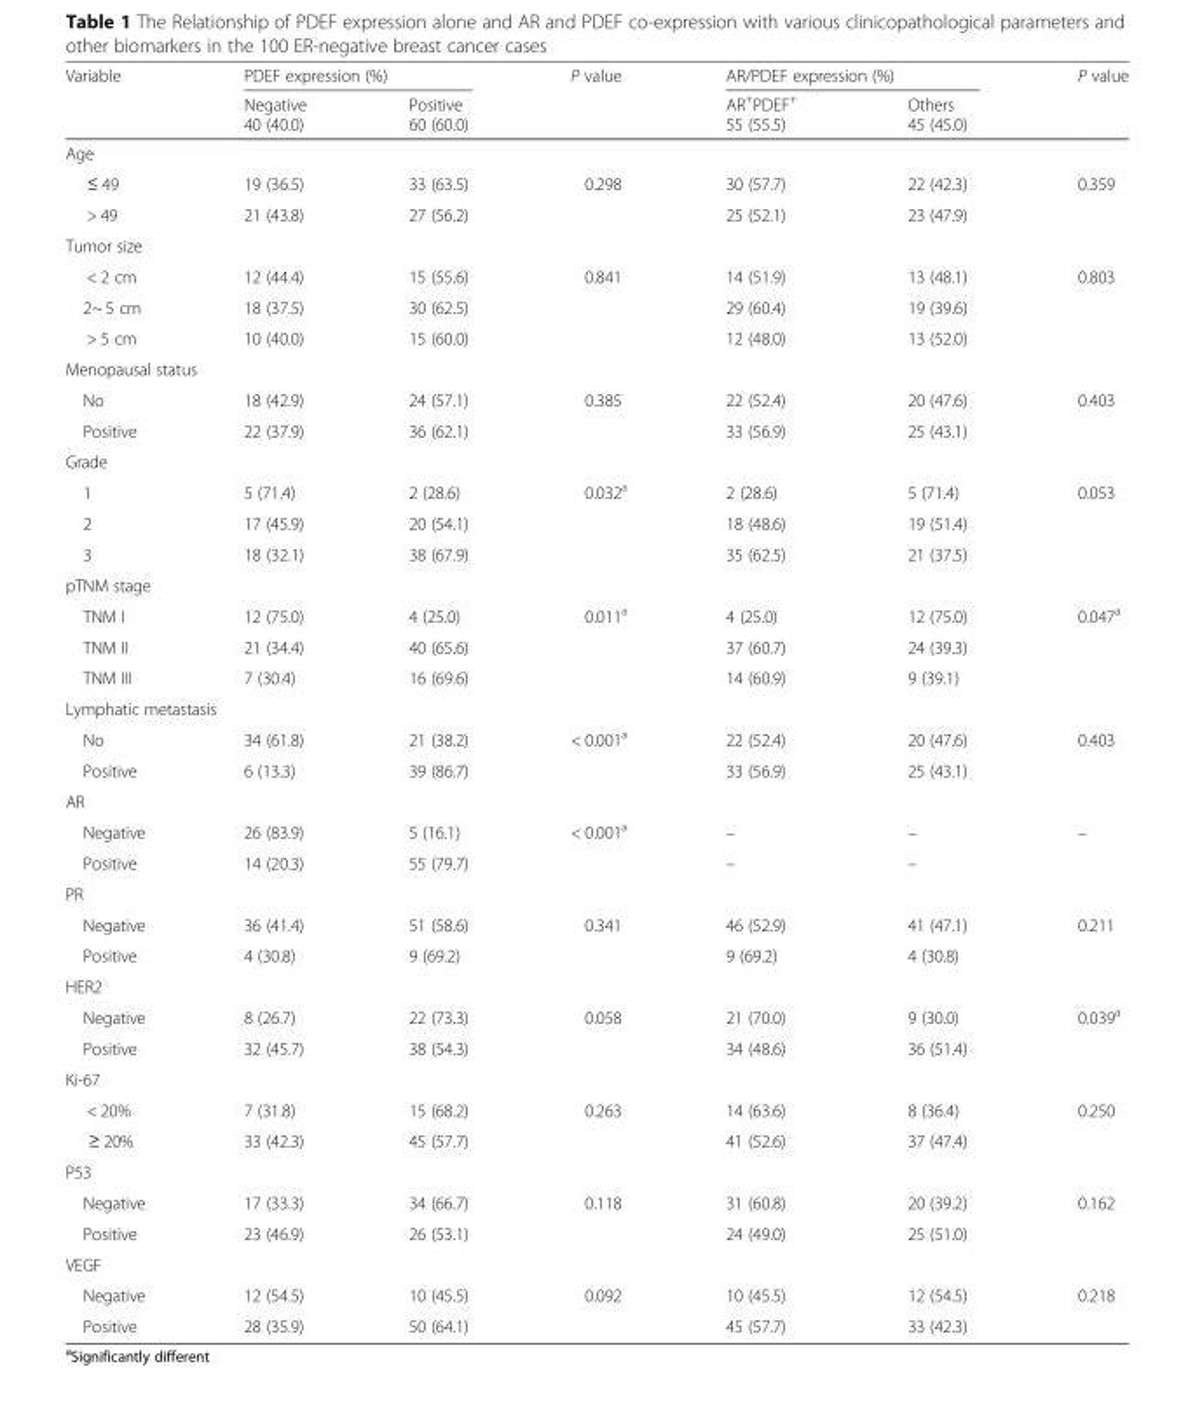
<table><thead><tr><td rowspan="2">Variable</td><td colspan="2">PDEF expression (%)</td><td rowspan="2">P value</td><td colspan="2">AR/PDEF expression (%)</td><td rowspan="2">P value</td></tr><tr><td>Negative 40 (40.0)</td><td>Positive 60 (60.0)</td><td>AR<sup>+</sup>PDEF<sup>+</sup> 55 (55.5)</td><td>Others 45 (45.0)</td></tr></thead><tbody><tr><td colspan="7">Age</td></tr><tr><td>≤ 49</td><td>19 (36.5)</td><td>33 (63.5)</td><td rowspan="2">0.298</td><td>30 (57.7)</td><td>22 (42.3)</td><td rowspan="2">0.359</td></tr><tr><td>&gt; 49</td><td>21 (43.8)</td><td>27 (56.2)</td><td>25 (52.1)</td><td>23 (47.9)</td></tr><tr><td colspan="7">Tumor size</td></tr><tr><td>&lt; 2 cm</td><td>12 (44.4)</td><td>15 (55.6)</td><td rowspan="3">0.841</td><td>14 (51.9)</td><td>13 (48.1)</td><td rowspan="3">0.803</td></tr><tr><td>2~ 5 cm</td><td>18 (37.5)</td><td>30 (62.5)</td><td>29 (60.4)</td><td>19 (39.6)</td></tr><tr><td>&gt; 5 cm</td><td>10 (40.0)</td><td>15 (60.0)</td><td>12 (48.0)</td><td>13 (52.0)</td></tr><tr><td colspan="7">Menopausal status</td></tr><tr><td>No</td><td>18 (42.9)</td><td>24 (57.1)</td><td rowspan="2">0.385</td><td>22 (52.4)</td><td>20 (47.6)</td><td rowspan="2">0.403</td></tr><tr><td>Positive</td><td>22 (37.9)</td><td>36 (62.1)</td><td>33 (56.9)</td><td>25 (43.1)</td></tr><tr><td colspan="7">Grade</td></tr><tr><td>1</td><td>5 (71.4)</td><td>2 (28.6)</td><td rowspan="3">0.032<sup>a</sup></td><td>2 (28.6)</td><td>5 (71.4)</td><td rowspan="3">0.053</td></tr><tr><td>2</td><td>17 (45.9)</td><td>20 (54.1)</td><td>18 (48.6)</td><td>19 (51.4)</td></tr><tr><td>3</td><td>18 (32.1)</td><td>38 (67.9)</td><td>35 (62.5)</td><td>21 (37.5)</td></tr><tr><td colspan="7">pTNM stage</td></tr><tr><td>TNM I</td><td>12 (75.0)</td><td>4 (25.0)</td><td rowspan="3">0.011<sup>a</sup></td><td>4 (25.0)</td><td>12 (75.0)</td><td rowspan="3">0.047<sup>a</sup></td></tr><tr><td>TNM II</td><td>21 (34.4)</td><td>40 (65.6)</td><td>37 (60.7)</td><td>24 (39.3)</td></tr><tr><td>TNM III</td><td>7 (30.4)</td><td>16 (69.6)</td><td>14 (60.9)</td><td>9 (39.1)</td></tr><tr><td colspan="7">Lymphatic metastasis</td></tr><tr><td>No</td><td>34 (61.8)</td><td>21 (38.2)</td><td rowspan="2">&lt; 0.001<sup>a</sup></td><td>22 (52.4)</td><td>20 (47.6)</td><td rowspan="2">0.403</td></tr><tr><td>Positive</td><td>6 (13.3)</td><td>39 (86.7)</td><td>33 (56.9)</td><td>25 (43.1)</td></tr><tr><td colspan="7">AR</td></tr><tr><td>Negative</td><td>26 (83.9)</td><td>5 (16.1)</td><td rowspan="2">&lt; 0.001<sup>a</sup></td><td>–</td><td>–</td><td rowspan="2">–</td></tr><tr><td>Positive</td><td>14 (20.3)</td><td>55 (79.7)</td><td>–</td><td>–</td></tr><tr><td colspan="7">PR</td></tr><tr><td>Negative</td><td>36 (41.4)</td><td>51 (58.6)</td><td rowspan="2">0.341</td><td>46 (52.9)</td><td>41 (47.1)</td><td rowspan="2">0.211</td></tr><tr><td>Positive</td><td>4 (30.8)</td><td>9 (69.2)</td><td>9 (69.2)</td><td>4 (30.8)</td></tr><tr><td colspan="7">HER2</td></tr><tr><td>Negative</td><td>8 (26.7)</td><td>22 (73.3)</td><td rowspan="2">0.058</td><td>21 (70.0)</td><td>9 (30.0)</td><td rowspan="2">0.039<sup>a</sup></td></tr><tr><td>Positive</td><td>32 (45.7)</td><td>38 (54.3)</td><td>34 (48.6)</td><td>36 (51.4)</td></tr><tr><td colspan="7">Ki-67</td></tr><tr><td>&lt; 20%</td><td>7 (31.8)</td><td>15 (68.2)</td><td rowspan="2">0.263</td><td>14 (63.6)</td><td>8 (36.4)</td><td rowspan="2">0.250</td></tr><tr><td>≥ 20%</td><td>33 (42.3)</td><td>45 (57.7)</td><td>41 (52.6)</td><td>37 (47.4)</td></tr><tr><td colspan="7">P53</td></tr><tr><td>Negative</td><td>17 (33.3)</td><td>34 (66.7)</td><td rowspan="2">0.118</td><td>31 (60.8)</td><td>20 (39.2)</td><td rowspan="2">0.162</td></tr><tr><td>Positive</td><td>23 (46.9)</td><td>26 (53.1)</td><td>24 (49.0)</td><td>25 (51.0)</td></tr><tr><td colspan="7">VEGF</td></tr><tr><td>Negative</td><td>12 (54.5)</td><td>10 (45.5)</td><td rowspan="2">0.092</td><td>10 (45.5)</td><td>12 (54.5)</td><td rowspan="2">0.218</td></tr><tr><td>Positive</td><td>28 (35.9)</td><td>50 (64.1)</td><td>45 (57.7)</td><td>33 (42.3)</td></tr></tbody></table>